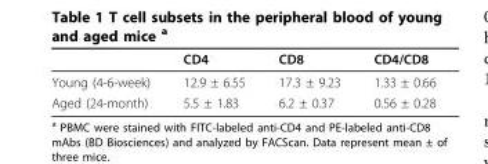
<table><thead><tr><td></td><td>CD4</td><td>CD8</td><td>CD4/CD8</td></tr></thead><tbody><tr><td>Young (4-6-week)</td><td>12.9 ± 6.55</td><td>17.3 ± 9.23</td><td>1.33 ± 0.66</td></tr><tr><td>Aged (24-month)</td><td>5.5 ± 1.83</td><td>6.2 ± 0.37</td><td>0.56 ± 0.28</td></tr></tbody></table>